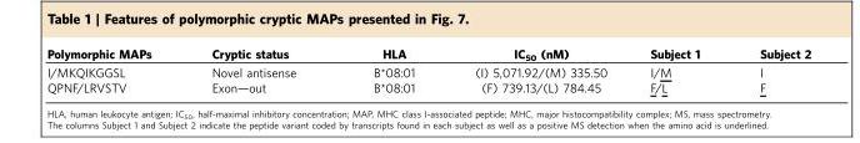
<table><thead><tr><td>Polymorphic MAPs</td><td>Cryptic status</td><td>HLA</td><td>IC<sub>50</sub> (nM)</td><td>Subject 1</td><td>Subject 2</td></tr></thead><tbody><tr><td>I/MKQIKGGSL</td><td>Novel antisense</td><td>B*08:01</td><td>(I) 5,071.92/(M) 335.50</td><td>I/M</td><td>I</td></tr><tr><td>QPNF/LRVSTV</td><td>Exon—out</td><td>B*08:01</td><td>(F) 739.13/(L) 784.45</td><td>F/L</td><td>F</td></tr></tbody></table>